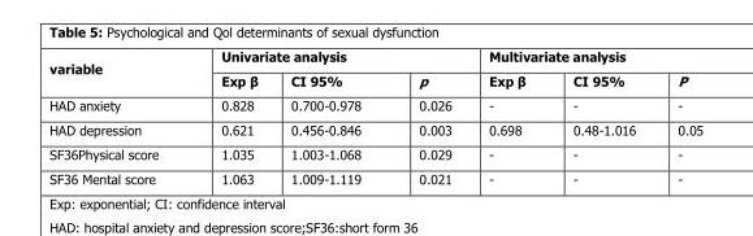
<table><thead><tr><td rowspan="2">variable</td><td colspan="3">Univariate analysis</td><td colspan="3">Multivariate analysis</td></tr><tr><td>Exp β</td><td>CI 95%</td><td>p</td><td>Exp β</td><td>CI 95%</td><td>P</td></tr></thead><tbody><tr><td>HAD anxiety</td><td>0.828</td><td>0.700-0.978</td><td>0.026</td><td>-</td><td>-</td><td>-</td></tr><tr><td>HAD depression</td><td>0.621</td><td>0.456-0.846</td><td>0.003</td><td>0.698</td><td>0.48-1.016</td><td>0.05</td></tr><tr><td>SF36Physical score</td><td>1.035</td><td>1.003-1.068</td><td>0.029</td><td>-</td><td>-</td><td>-</td></tr><tr><td>SF36 Mental score</td><td>1.063</td><td>1.009-1.119</td><td>0.021</td><td>-</td><td>-</td><td>-</td></tr></tbody></table>